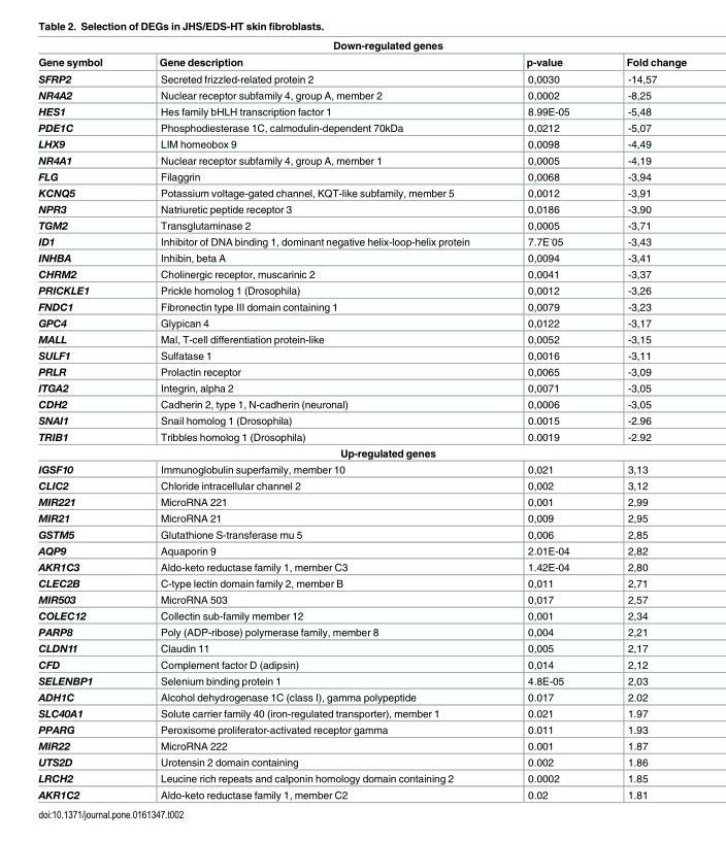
<table><tbody><tr><td colspan="4">Down-regulated genes</td></tr><tr><td>Gene symbol</td><td>Gene description</td><td>p-value</td><td>Fold change</td></tr><tr><td>SFRP2</td><td>Secreted frizzled-related protein 2</td><td>0,0030</td><td>-14,57</td></tr><tr><td>NR4A2</td><td>Nuclear receptor subfamily 4, group A, member 2</td><td>0,0002</td><td>-8,25</td></tr><tr><td>HES1</td><td>Hes family bHLH transcription factor 1</td><td>8.99E-05</td><td>-5,48</td></tr><tr><td>PDE1C</td><td>Phosphodiesterase 1C, calmodulin-dependent 70kDa</td><td>0,0212</td><td>-5,07</td></tr><tr><td>LHX9</td><td>LIM homeobox 9</td><td>0,0098</td><td>-4,49</td></tr><tr><td>NR4A1</td><td>Nuclear receptor subfamily 4, group A, member 1</td><td>0,0005</td><td>-4,19</td></tr><tr><td>FLG</td><td>Filaggrin</td><td>0,0068</td><td>-3,94</td></tr><tr><td>KCNQ5</td><td>Potassium voltage-gated channel, KQT-like subfamily, member 5</td><td>0,0012</td><td>-3,91</td></tr><tr><td>NPR3</td><td>Natriuretic peptide receptor 3</td><td>0,0186</td><td>-3,90</td></tr><tr><td>TGM2</td><td>Transglutaminase 2</td><td>0,0005</td><td>-3,71</td></tr><tr><td>ID1</td><td>Inhibitor of DNA binding 1, dominant negative helix-loop-helix protein</td><td>7.7E<sup>-</sup>05</td><td>-3,43</td></tr><tr><td>INHBA</td><td>Inhibin, beta A</td><td>0,0094</td><td>-3,41</td></tr><tr><td>CHRM2</td><td>Cholinergic receptor, muscarinic 2</td><td>0,0041</td><td>-3,37</td></tr><tr><td>PRICKLE1</td><td>Prickle homolog 1 (Drosophila)</td><td>0,0012</td><td>-3,26</td></tr><tr><td>FNDC1</td><td>Fibronectin type III domain containing 1</td><td>0,0079</td><td>-3,23</td></tr><tr><td>GPC4</td><td>Glypican 4</td><td>0,0122</td><td>-3,17</td></tr><tr><td>MALL</td><td>Mal, T-cell differentiation protein-like</td><td>0,0052</td><td>-3,15</td></tr><tr><td>SULF1</td><td>Sulfatase 1</td><td>0,0016</td><td>-3,11</td></tr><tr><td>PRLR</td><td>Prolactin receptor</td><td>0,0065</td><td>-3,09</td></tr><tr><td>ITGA2</td><td>Integrin, alpha 2</td><td>0,0071</td><td>-3,05</td></tr><tr><td>CDH2</td><td>Cadherin 2, type 1, N-cadherin (neuronal)</td><td>0,0006</td><td>-3,05</td></tr><tr><td>SNAI1</td><td>Snail homolog 1 (Drosophila)</td><td>0.0015</td><td>-2.96</td></tr><tr><td>TRIB1</td><td>Tribbles homolog 1 (Drosophila)</td><td>0.0019</td><td>-2.92</td></tr><tr><td colspan="4">Up-regulated genes</td></tr><tr><td>IGSF10</td><td>Immunoglobulin superfamily, member 10</td><td>0,021</td><td>3,13</td></tr><tr><td>CLIC2</td><td>Chloride intracellular channel 2</td><td>0,002</td><td>3,12</td></tr><tr><td>MIR221</td><td>MicroRNA 221</td><td>0,001</td><td>2,99</td></tr><tr><td>MIR21</td><td>MicroRNA 21</td><td>0,009</td><td>2,95</td></tr><tr><td>GSTM5</td><td>Glutathione S-transferase mu 5</td><td>0,006</td><td>2,85</td></tr><tr><td>AQP9</td><td>Aquaporin 9</td><td>2.01E-04</td><td>2,82</td></tr><tr><td>AKR1C3</td><td>Aldo-keto reductase family 1, member C3</td><td>1.42E-04</td><td>2,80</td></tr><tr><td>CLEC2B</td><td>C-type lectin domain family 2, member B</td><td>0,011</td><td>2,71</td></tr><tr><td>MIR503</td><td>MicroRNA 503</td><td>0,017</td><td>2,57</td></tr><tr><td>COLEC12</td><td>Collectin sub-family member 12</td><td>0,001</td><td>2,34</td></tr><tr><td>PARP8</td><td>Poly (ADP-ribose) polymerase family, member 8</td><td>0,004</td><td>2,21</td></tr><tr><td>CLDN11</td><td>Claudin 11</td><td>0,005</td><td>2,17</td></tr><tr><td>CFD</td><td>Complement factor D (adipsin)</td><td>0,014</td><td>2,12</td></tr><tr><td>SELENBP1</td><td>Selenium binding protein 1</td><td>4.8E-05</td><td>2,03</td></tr><tr><td>ADH1C</td><td>Alcohol dehydrogenase 1C (class I), gamma polypeptide</td><td>0.017</td><td>2.02</td></tr><tr><td>SLC40A1</td><td>Solute carrier family 40 (iron-regulated transporter), member 1</td><td>0.021</td><td>1.97</td></tr><tr><td>PPARG</td><td>Peroxisome proliferator-activated receptor gamma</td><td>0.011</td><td>1.93</td></tr><tr><td>MIR22</td><td>MicroRNA 222</td><td>0.001</td><td>1.87</td></tr><tr><td>UTS2D</td><td>Urotensin 2 domain containing</td><td>0.002</td><td>1.86</td></tr><tr><td>LRCH2</td><td>Leucine rich repeats and calponin homology domain containing 2</td><td>0.0002</td><td>1.85</td></tr><tr><td>AKR1C2</td><td>Aldo-keto reductase family 1, member C2</td><td>0.02</td><td>1.81</td></tr></tbody></table>